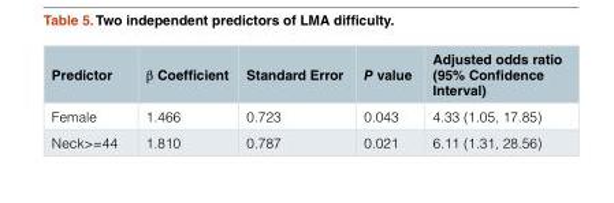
<table><thead><tr><td>Predictor</td><td>β Coefficient</td><td>Standard Error</td><td>P value</td><td>Adjusted odds ratio (95% Confidence Interval)</td></tr></thead><tbody><tr><td>Female</td><td>1.466</td><td>0.723</td><td>0.043</td><td>4.33 (1.05, 17.85)</td></tr><tr><td>Neck&gt;=44</td><td>1.810</td><td>0.787</td><td>0.021</td><td>6.11 (1.31, 28.56)</td></tr></tbody></table>